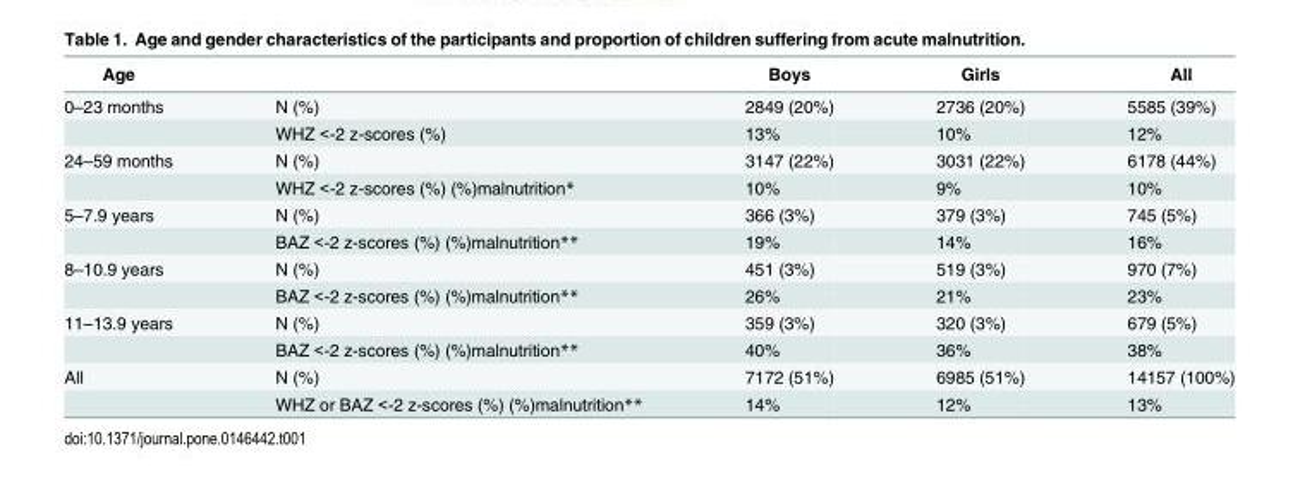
<table><thead><tr><td>Age</td><td></td><td>Boys</td><td>Girls</td><td>All</td></tr></thead><tbody><tr><td rowspan="2">0–23 months</td><td>N (%)</td><td>2849 (20%)</td><td>2736 (20%)</td><td>5585 (39%)</td></tr><tr><td>WHZ &lt;-2 z-scores (%)</td><td>13%</td><td>10%</td><td>12%</td></tr><tr><td rowspan="2">24–59 months</td><td>N (%)</td><td>3147 (22%)</td><td>3031 (22%)</td><td>6178 (44%)</td></tr><tr><td>WHZ &lt;-2 z-scores (%) (%)malnutrition*</td><td>10%</td><td>9%</td><td>10%</td></tr><tr><td rowspan="2">5–7.9 years</td><td>N (%)</td><td>366 (3%)</td><td>379 (3%)</td><td>745 (5%)</td></tr><tr><td>BAZ &lt;-2 z-scores (%) (%)malnutrition**</td><td>19%</td><td>14%</td><td>16%</td></tr><tr><td rowspan="2">8–10.9 years</td><td>N (%)</td><td>451 (3%)</td><td>519 (3%)</td><td>970 (7%)</td></tr><tr><td>BAZ &lt;-2 z-scores (%) (%)malnutrition**</td><td>26%</td><td>21%</td><td>23%</td></tr><tr><td rowspan="2">11–13.9 years</td><td>N (%)</td><td>359 (3%)</td><td>320 (3%)</td><td>679 (5%)</td></tr><tr><td>BAZ &lt;-2 z-scores (%) (%)malnutrition**</td><td>40%</td><td>36%</td><td>38%</td></tr><tr><td rowspan="2">All</td><td>N (%)</td><td>7172 (51%)</td><td>6985 (51%)</td><td>14157 (100%)</td></tr><tr><td>WHZ or BAZ &lt;-2 z-scores (%) (%)malnutrition**</td><td>14%</td><td>12%</td><td>13%</td></tr></tbody></table>